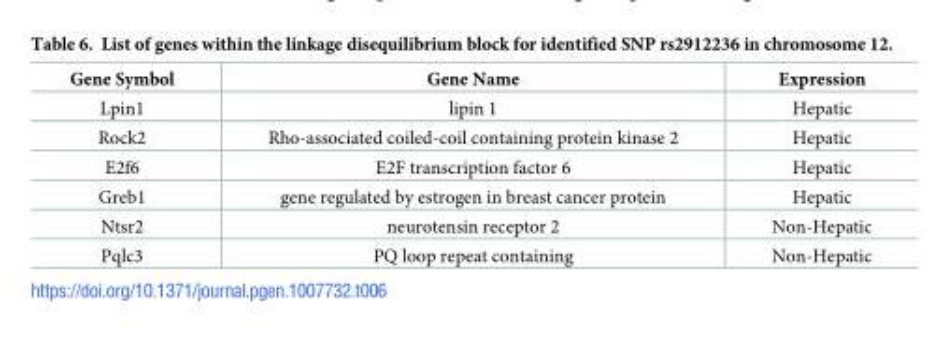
<table><thead><tr><td>Gene Symbol</td><td>Gene Name</td><td>Expression</td></tr></thead><tbody><tr><td>Lpin1</td><td>lipin 1</td><td>Hepatic</td></tr><tr><td>Rock2</td><td>Rho-associated coiled-coil containing protein kinase 2</td><td>Hepatic</td></tr><tr><td>E2f6</td><td>E2F transcription factor 6</td><td>Hepatic</td></tr><tr><td>Greb1</td><td>gene regulated by estrogen in breast cancer protein</td><td>Hepatic</td></tr><tr><td>Ntsr2</td><td>neurotensin receptor 2</td><td>Non-Hepatic</td></tr><tr><td>Pqlc3</td><td>PQ loop repeat containing</td><td>Non-Hepatic</td></tr></tbody></table>